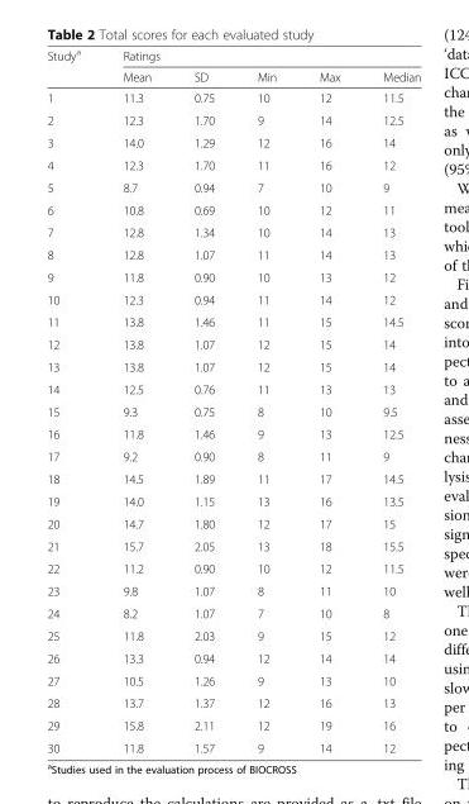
<table><thead><tr><td rowspan="2">Study<sup>a</sup></td><td colspan="5">Ratings</td></tr><tr><td>Mean</td><td>SD</td><td>Min</td><td>Max</td><td>Median</td></tr></thead><tbody><tr><td>1</td><td>11.3</td><td>0.75</td><td>10</td><td>12</td><td>11.5</td></tr><tr><td>2</td><td>12.3</td><td>1.70</td><td>9</td><td>14</td><td>12.5</td></tr><tr><td>3</td><td>14.0</td><td>1.29</td><td>12</td><td>16</td><td>14</td></tr><tr><td>4</td><td>12.3</td><td>1.70</td><td>11</td><td>16</td><td>12</td></tr><tr><td>5</td><td>8.7</td><td>0.94</td><td>7</td><td>10</td><td>9</td></tr><tr><td>6</td><td>10.8</td><td>0.69</td><td>10</td><td>12</td><td>11</td></tr><tr><td>7</td><td>12.8</td><td>1.34</td><td>10</td><td>14</td><td>13</td></tr><tr><td>8</td><td>12.8</td><td>1.07</td><td>11</td><td>14</td><td>13</td></tr><tr><td>9</td><td>11.8</td><td>0.90</td><td>10</td><td>13</td><td>12</td></tr><tr><td>10</td><td>12.3</td><td>0.94</td><td>11</td><td>14</td><td>12</td></tr><tr><td>11</td><td>13.8</td><td>1.46</td><td>11</td><td>15</td><td>14.5</td></tr><tr><td>12</td><td>13.8</td><td>1.07</td><td>12</td><td>15</td><td>14</td></tr><tr><td>13</td><td>13.8</td><td>1.07</td><td>12</td><td>15</td><td>14</td></tr><tr><td>14</td><td>12.5</td><td>0.76</td><td>11</td><td>13</td><td>13</td></tr><tr><td>15</td><td>9.3</td><td>0.75</td><td>8</td><td>10</td><td>9.5</td></tr><tr><td>16</td><td>11.8</td><td>1.46</td><td>9</td><td>13</td><td>12.5</td></tr><tr><td>17</td><td>9.2</td><td>0.90</td><td>8</td><td>11</td><td>9</td></tr><tr><td>18</td><td>14.5</td><td>1.89</td><td>11</td><td>17</td><td>14.5</td></tr><tr><td>19</td><td>14.0</td><td>1.15</td><td>13</td><td>16</td><td>13.5</td></tr><tr><td>20</td><td>14.7</td><td>1.80</td><td>12</td><td>17</td><td>15</td></tr><tr><td>21</td><td>15.7</td><td>2.05</td><td>13</td><td>18</td><td>15.5</td></tr><tr><td>22</td><td>11.2</td><td>0.90</td><td>10</td><td>12</td><td>11.5</td></tr><tr><td>23</td><td>9.8</td><td>1.07</td><td>8</td><td>11</td><td>10</td></tr><tr><td>24</td><td>8.2</td><td>1.07</td><td>7</td><td>10</td><td>8</td></tr><tr><td>25</td><td>11.8</td><td>2.03</td><td>9</td><td>15</td><td>12</td></tr><tr><td>26</td><td>13.3</td><td>0.94</td><td>12</td><td>14</td><td>14</td></tr><tr><td>27</td><td>10.5</td><td>1.26</td><td>9</td><td>13</td><td>10</td></tr><tr><td>28</td><td>13.7</td><td>1.37</td><td>12</td><td>16</td><td>13</td></tr><tr><td>29</td><td>15.8</td><td>2.11</td><td>12</td><td>19</td><td>16</td></tr><tr><td>30</td><td>11.8</td><td>1.57</td><td>9</td><td>14</td><td>12</td></tr></tbody></table>